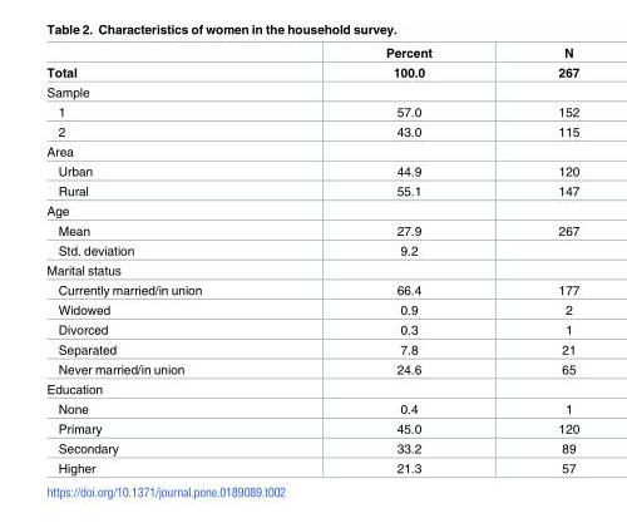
<table><thead><tr><td rowspan="2">Total</td><td rowspan="2">Percent 100.0</td><td rowspan="2">N 267</td></tr><tr></tr></thead><tbody><tr><td colspan="3">Sample</td></tr><tr><td>1</td><td>57.0</td><td>152</td></tr><tr><td>2</td><td>43.0</td><td>115</td></tr><tr><td colspan="3">Area</td></tr><tr><td>Urban</td><td>44.9</td><td>120</td></tr><tr><td>Rural</td><td>55.1</td><td>147</td></tr><tr><td colspan="3">Age</td></tr><tr><td>Mean</td><td>27.9</td><td>267</td></tr><tr><td>Std. deviation</td><td>9.2</td><td></td></tr><tr><td colspan="3">Marital status</td></tr><tr><td>Currently married/in union</td><td>66.4</td><td>177</td></tr><tr><td>Widowed</td><td>0.9</td><td>2</td></tr><tr><td>Divorced</td><td>0.3</td><td>1</td></tr><tr><td>Separated</td><td>7.8</td><td>21</td></tr><tr><td>Never married/in union</td><td>24.6</td><td>65</td></tr><tr><td colspan="3">Education</td></tr><tr><td>None</td><td>0.4</td><td>1</td></tr><tr><td>Primary</td><td>45.0</td><td>120</td></tr><tr><td>Secondary</td><td>33.2</td><td>89</td></tr><tr><td>Higher</td><td>21.3</td><td>57</td></tr></tbody></table>